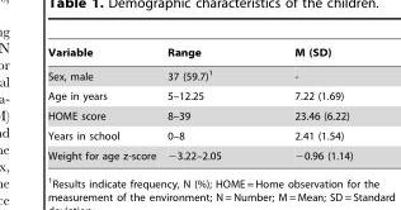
<table><thead><tr><td>Variable</td><td>Range</td><td>M (SD)</td></tr></thead><tbody><tr><td>Sex, male</td><td>37 (59.7)<sup>1</sup></td><td>-</td></tr><tr><td>Age in years</td><td>5–12.25</td><td>7.22 (1.69)</td></tr><tr><td>HOME score</td><td>8–39</td><td>23.46 (6.22)</td></tr><tr><td>Years in school</td><td>0–8</td><td>2.41 (1.54)</td></tr><tr><td>Weight for age z-score</td><td>−3.22–2.05</td><td>−0.96 (1.14)</td></tr></tbody></table>